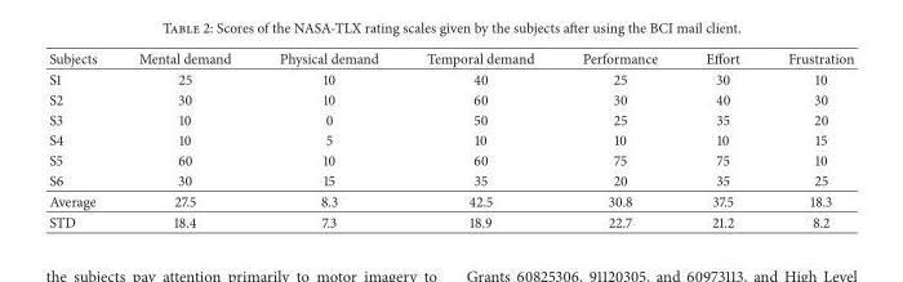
<table><thead><tr><td>Subjects</td><td>Mental demand</td><td>Physical demand</td><td>Temporal demand</td><td>Performance</td><td>Effort</td><td>Frustration</td></tr></thead><tbody><tr><td>S1</td><td>25</td><td>10</td><td>40</td><td>25</td><td>30</td><td>10</td></tr><tr><td>S2</td><td>30</td><td>10</td><td>60</td><td>30</td><td>40</td><td>30</td></tr><tr><td>S3</td><td>10</td><td>0</td><td>50</td><td>25</td><td>35</td><td>20</td></tr><tr><td>S4</td><td>10</td><td>5</td><td>10</td><td>10</td><td>10</td><td>15</td></tr><tr><td>S5</td><td>60</td><td>10</td><td>60</td><td>75</td><td>75</td><td>10</td></tr><tr><td>S6</td><td>30</td><td>15</td><td>35</td><td>20</td><td>35</td><td>25</td></tr><tr><td>Average</td><td>27.5</td><td>8.3</td><td>42.5</td><td>30.8</td><td>37.5</td><td>18.3</td></tr><tr><td>STD</td><td>18.4</td><td>7.3</td><td>18.9</td><td>22.7</td><td>21.2</td><td>8.2</td></tr></tbody></table>